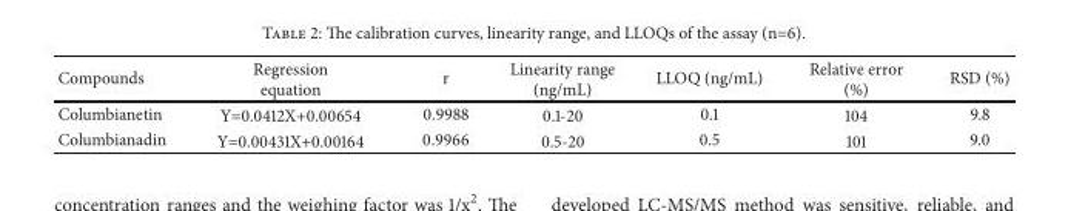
<table><thead><tr><td>Compounds</td><td>Regression equation</td><td>r</td><td>Linearity range (ng/mL)</td><td>LLOQ (ng/mL)</td><td>Relative error (%)</td><td>RSD (%)</td></tr></thead><tbody><tr><td>Columbianetin</td><td>Y=0.0412X+0.00654</td><td>0.9988</td><td>0.1-20</td><td>0.1</td><td>104</td><td>9.8</td></tr><tr><td>Columbianadin</td><td>Y=0.00431X+0.00164</td><td>0.9966</td><td>0.5-20</td><td>0.5</td><td>101</td><td>9.0</td></tr></tbody></table>